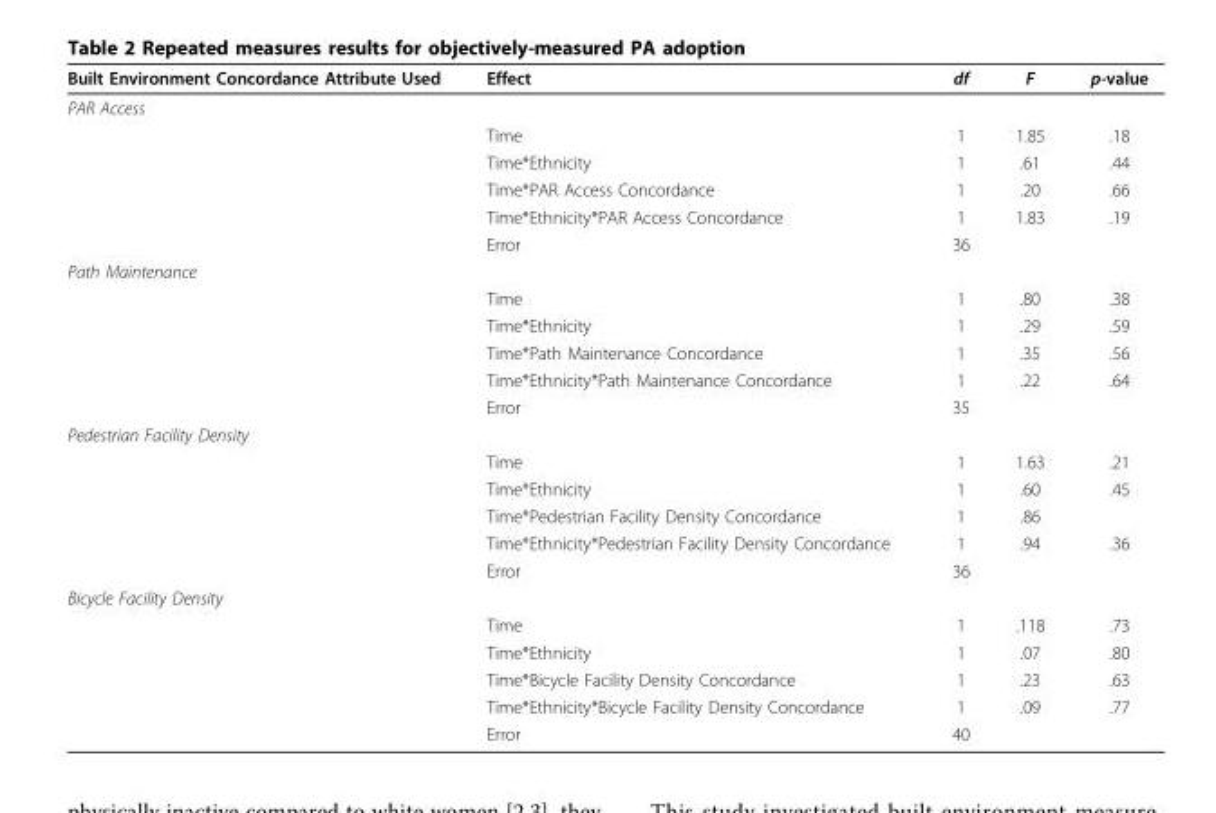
<table><thead><tr><td>Built Environment Concordance Attribute Used</td><td>Effect</td><td>df</td><td>F</td><td>p-value</td></tr></thead><tbody><tr><td colspan="5">PAR Access</td></tr><tr><td></td><td>Time</td><td>1</td><td>1.85</td><td>.18</td></tr><tr><td></td><td>Time*Ethnicity</td><td>1</td><td>.61</td><td>.44</td></tr><tr><td></td><td>Time*PAR Access Concordance</td><td>1</td><td>.20</td><td>.66</td></tr><tr><td></td><td>Time*Ethnicity*PAR Access Concordance</td><td>1</td><td>1.83</td><td>.19</td></tr><tr><td></td><td>Error</td><td>36</td><td></td><td></td></tr><tr><td colspan="5">Path Maintenance</td></tr><tr><td></td><td>Time</td><td>1</td><td>.80</td><td>.38</td></tr><tr><td></td><td>Time*Ethnicity</td><td>1</td><td>.29</td><td>.59</td></tr><tr><td></td><td>Time*Path Maintenance Concordance</td><td>1</td><td>.35</td><td>.56</td></tr><tr><td></td><td>Time*Ethnicity*Path Maintenance Concordance</td><td>1</td><td>.22</td><td>.64</td></tr><tr><td></td><td>Error</td><td>35</td><td></td><td></td></tr><tr><td colspan="5">Pedestrian Facility Density</td></tr><tr><td></td><td>Time</td><td>1</td><td>1.63</td><td>.21</td></tr><tr><td></td><td>Time*Ethnicity</td><td>1</td><td>.60</td><td>.45</td></tr><tr><td></td><td>Time*Pedestrian Facility Density Concordance</td><td>1</td><td>.86</td><td></td></tr><tr><td></td><td>Time*Ethnicity*Pedestrian Facility Density Concordance</td><td>1</td><td>.94</td><td>.36</td></tr><tr><td></td><td>Error</td><td>36</td><td></td><td></td></tr><tr><td colspan="5">Bicycle Facility Density</td></tr><tr><td></td><td>Time</td><td>1</td><td>.118</td><td>.73</td></tr><tr><td></td><td>Time*Ethnicity</td><td>1</td><td>.07</td><td>.80</td></tr><tr><td></td><td>Time*Bicycle Facility Density Concordance</td><td>1</td><td>.23</td><td>.63</td></tr><tr><td></td><td>Time*Ethnicity*Bicycle Facility Density Concordance</td><td>1</td><td>.09</td><td>.77</td></tr><tr><td></td><td>Error</td><td>40</td><td></td><td></td></tr></tbody></table>